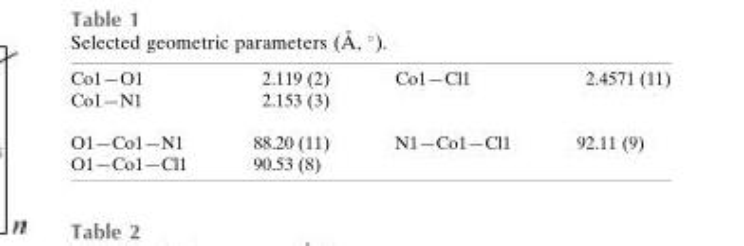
<table><tbody><tr><td>Co1—O1</td><td>2.119 (2)</td><td>Co1—Cl1</td><td>2.4571 (11)</td></tr><tr><td>Co1—N1</td><td>2.153 (3)</td><td></td><td></td></tr><tr><td>O1—Co1—N1</td><td>88.20 (11)</td><td>N1—Co1—Cl1</td><td>92.11 (9)</td></tr><tr><td>O1—Co1—Cl1</td><td>90.53 (8)</td><td></td><td></td></tr></tbody></table>